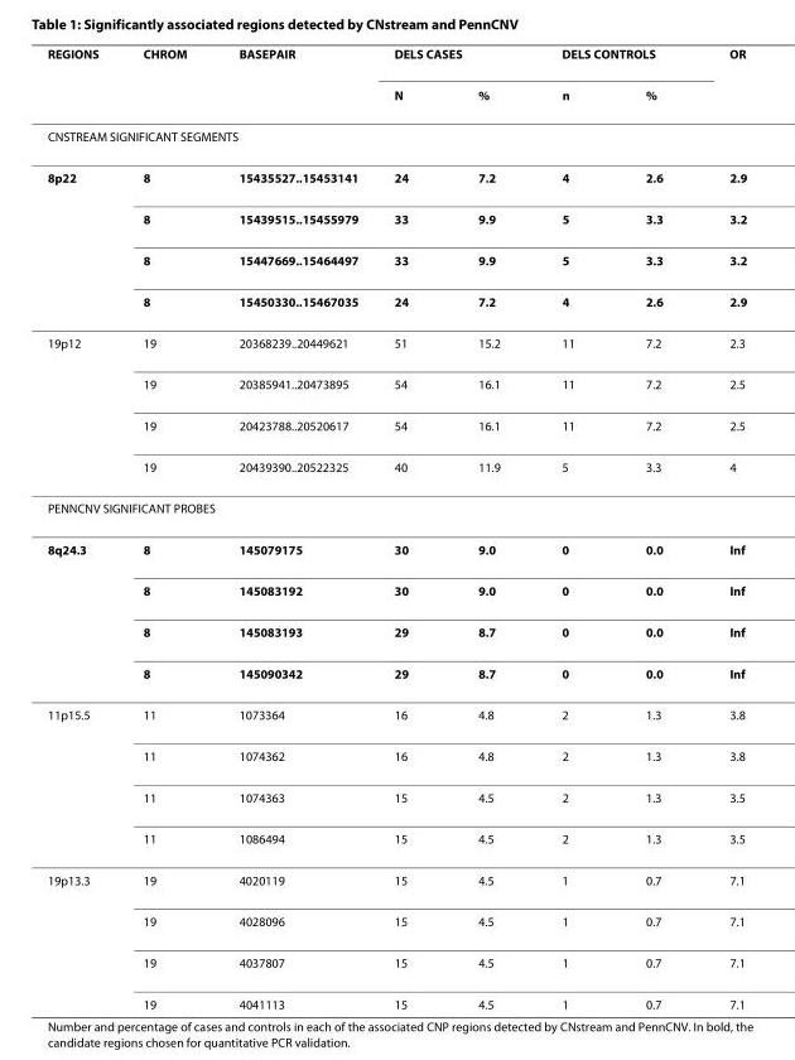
<table><thead><tr><td rowspan="2">REGIONS</td><td rowspan="2">CHROM</td><td rowspan="2">BASEPAIR</td><td colspan="2">DELS CASES</td><td colspan="2">DELS CONTROLS</td><td rowspan="2">OR</td></tr><tr><td>N</td><td>%</td><td>n</td><td>%</td></tr></thead><tbody><tr><td colspan="8">CNSTREAM SIGNIFICANT SEGMENTS</td></tr><tr><td rowspan="4">8p22</td><td>8</td><td>15435527..15453141</td><td>24</td><td>7.2</td><td>4</td><td>2.6</td><td>2.9</td></tr><tr><td>8</td><td>15439515..15455979</td><td>33</td><td>9.9</td><td>5</td><td>3.3</td><td>3.2</td></tr><tr><td>8</td><td>15447669..15464497</td><td>33</td><td>9.9</td><td>5</td><td>3.3</td><td>3.2</td></tr><tr><td>8</td><td>15450330..15467035</td><td>24</td><td>7.2</td><td>4</td><td>2.6</td><td>2.9</td></tr><tr><td rowspan="4">19p12</td><td>19</td><td>20368239..20449621</td><td>51</td><td>15.2</td><td>11</td><td>7.2</td><td>2.3</td></tr><tr><td>19</td><td>20385941..20473895</td><td>54</td><td>16.1</td><td>11</td><td>7.2</td><td>2.5</td></tr><tr><td>19</td><td>20423788..20520617</td><td>54</td><td>16.1</td><td>11</td><td>7.2</td><td>2.5</td></tr><tr><td>19</td><td>20439390..20522325</td><td>40</td><td>11.9</td><td>5</td><td>3.3</td><td>4</td></tr><tr><td colspan="8">PENNCNV SIGNIFICANT PROBES</td></tr><tr><td rowspan="4">8q24.3</td><td>8</td><td>145079175</td><td>30</td><td>9.0</td><td>0</td><td>0.0</td><td>Inf</td></tr><tr><td>8</td><td>145083192</td><td>30</td><td>9.0</td><td>0</td><td>0.0</td><td>Inf</td></tr><tr><td>8</td><td>145083193</td><td>29</td><td>8.7</td><td>0</td><td>0.0</td><td>Inf</td></tr><tr><td>8</td><td>145090342</td><td>29</td><td>8.7</td><td>0</td><td>0.0</td><td>Inf</td></tr><tr><td rowspan="4">11p15.5</td><td>11</td><td>1073364</td><td>16</td><td>4.8</td><td>2</td><td>1.3</td><td>3.8</td></tr><tr><td>11</td><td>1074362</td><td>16</td><td>4.8</td><td>2</td><td>1.3</td><td>3.8</td></tr><tr><td>11</td><td>1074363</td><td>15</td><td>4.5</td><td>2</td><td>1.3</td><td>3.5</td></tr><tr><td>11</td><td>1086494</td><td>15</td><td>4.5</td><td>2</td><td>1.3</td><td>3.5</td></tr><tr><td rowspan="4">19p13.3</td><td>19</td><td>4020119</td><td>15</td><td>4.5</td><td>1</td><td>0.7</td><td>7.1</td></tr><tr><td>19</td><td>4028096</td><td>15</td><td>4.5</td><td>1</td><td>0.7</td><td>7.1</td></tr><tr><td>19</td><td>4037807</td><td>15</td><td>4.5</td><td>1</td><td>0.7</td><td>7.1</td></tr><tr><td>19</td><td>4041113</td><td>15</td><td>4.5</td><td>1</td><td>0.7</td><td>7.1</td></tr></tbody></table>